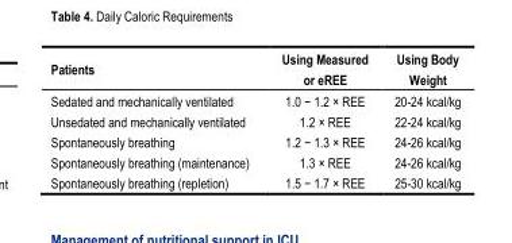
<table><thead><tr><td>Patients</td><td>Using Measured or eREE</td><td>Using Body Weight</td></tr></thead><tbody><tr><td>Sedated and mechanically ventilated</td><td>1.0 − 1.2 × REE</td><td>20-24 kcal/kg</td></tr><tr><td>Unsedated and mechanically ventilated</td><td>1.2 × REE</td><td>22-24 kcal/kg</td></tr><tr><td>Spontaneously breathing</td><td>1.2 − 1.3 × REE</td><td>24-26 kcal/kg</td></tr><tr><td>Spontaneously breathing (maintenance)</td><td>1.3 × REE</td><td>24-26 kcal/kg</td></tr><tr><td>Spontaneously breathing (repletion)</td><td>1.5 − 1.7 × REE</td><td>25-30 kcal/kg</td></tr></tbody></table>